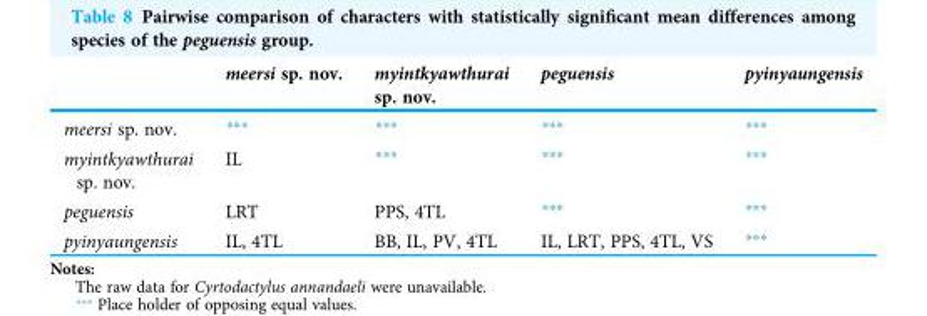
<table><thead><tr><td></td><td>meersi sp. nov.</td><td>myintkyawthurai sp. nov.</td><td>peguensis</td><td>pyinyaungensis</td></tr></thead><tbody><tr><td>meersi sp. nov.</td><td>***</td><td>***</td><td>***</td><td>***</td></tr><tr><td>myintkyawthurai sp. nov.</td><td>IL</td><td>***</td><td>***</td><td>***</td></tr><tr><td>peguensis</td><td>LRT</td><td>PPS, 4TL</td><td>***</td><td>***</td></tr><tr><td>pyinyaungensis</td><td>IL, 4TL</td><td>BB, IL, PV, 4TL</td><td>IL, LRT, PPS, 4TL, VS</td><td>***</td></tr></tbody></table>